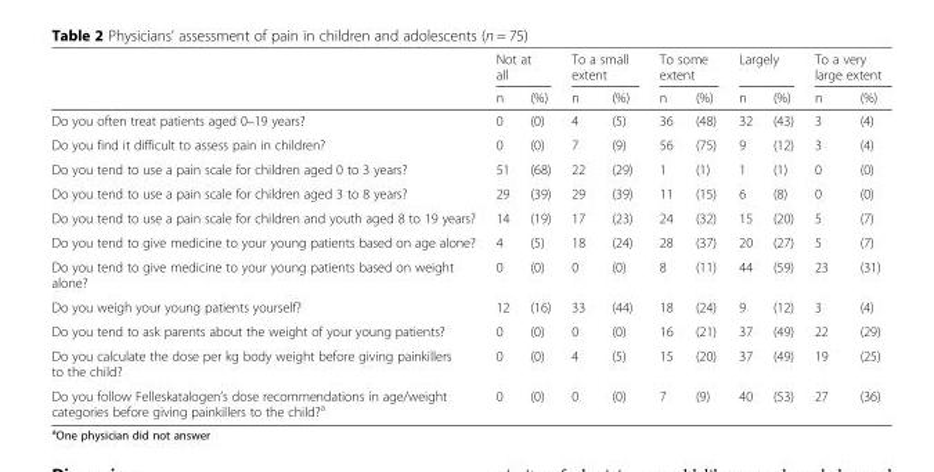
<table><thead><tr><td rowspan="2"></td><td colspan="2">Not at all</td><td colspan="2">To a small extent</td><td colspan="2">To some extent</td><td colspan="2">Largely</td><td colspan="2">To a very large extent</td></tr><tr><td>n</td><td>(%)</td><td>n</td><td>(%)</td><td>n</td><td>(%)</td><td>n</td><td>(%)</td><td>n</td><td>(%)</td></tr></thead><tbody><tr><td>Do you often treat patients aged 0–19 years?</td><td>0</td><td>(0)</td><td>4</td><td>(5)</td><td>36</td><td>(48)</td><td>32</td><td>(43)</td><td>3</td><td>(4)</td></tr><tr><td>Do you find it difficult to assess pain in children?</td><td>0</td><td>(0)</td><td>7</td><td>(9)</td><td>56</td><td>(75)</td><td>9</td><td>(12)</td><td>3</td><td>(4)</td></tr><tr><td>Do you tend to use a pain scale for children aged 0 to 3 years?</td><td>51</td><td>(68)</td><td>22</td><td>(29)</td><td>1</td><td>(1)</td><td>1</td><td>(1)</td><td>0</td><td>(0)</td></tr><tr><td>Do you tend to use a pain scale for children aged 3 to 8 years?</td><td>29</td><td>(39)</td><td>29</td><td>(39)</td><td>11</td><td>(15)</td><td>6</td><td>(8)</td><td>0</td><td>(0)</td></tr><tr><td>Do you tend to use a pain scale for children and youth aged 8 to 19 years?</td><td>14</td><td>(19)</td><td>17</td><td>(23)</td><td>24</td><td>(32)</td><td>15</td><td>(20)</td><td>5</td><td>(7)</td></tr><tr><td>Do you tend to give medicine to your young patients based on age alone?</td><td>4</td><td>(5)</td><td>18</td><td>(24)</td><td>28</td><td>(37)</td><td>20</td><td>(27)</td><td>5</td><td>(7)</td></tr><tr><td>Do you tend to give medicine to your young patients based on weight alone?</td><td>0</td><td>(0)</td><td>0</td><td>(0)</td><td>8</td><td>(11)</td><td>44</td><td>(59)</td><td>23</td><td>(31)</td></tr><tr><td>Do you weigh your young patients yourself?</td><td>12</td><td>(16)</td><td>33</td><td>(44)</td><td>18</td><td>(24)</td><td>9</td><td>(12)</td><td>3</td><td>(4)</td></tr><tr><td>Do you tend to ask parents about the weight of your young patients?</td><td>0</td><td>(0)</td><td>0</td><td>(0)</td><td>16</td><td>(21)</td><td>37</td><td>(49)</td><td>22</td><td>(29)</td></tr><tr><td>Do you calculate the dose per kg body weight before giving painkillers to the child?</td><td>0</td><td>(0)</td><td>4</td><td>(5)</td><td>15</td><td>(20)</td><td>37</td><td>(49)</td><td>19</td><td>(25)</td></tr><tr><td>Do you follow Felleskatalogen’s dose recommendations in age/weight categories before giving painkillers to the child?<sup>a</sup></td><td>0</td><td>(0)</td><td>0</td><td>(0)</td><td>7</td><td>(9)</td><td>40</td><td>(53)</td><td>27</td><td>(36)</td></tr></tbody></table>